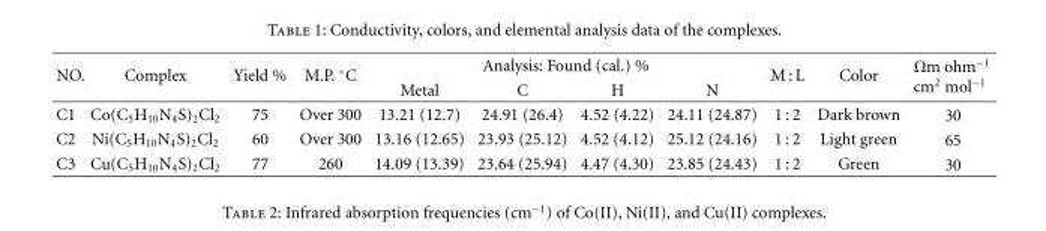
<table><thead><tr><td rowspan="2">NO.</td><td rowspan="2">Complex</td><td rowspan="2">Yield %</td><td rowspan="2">M.P. ◦C</td><td colspan="4">Analysis: Found (cal.) %</td><td rowspan="2">M : L</td><td rowspan="2">Color</td><td rowspan="2">Ωm ohm<sup>−1</sup> cm<sup>2</sup> mol<sup>−1</sup></td></tr><tr><td>Metal</td><td>C</td><td>H</td><td>N</td></tr></thead><tbody><tr><td>C1</td><td>Co(C<sub>5</sub>H<sub>10</sub>N<sub>4</sub>S)<sub>2</sub>Cl<sub>2</sub></td><td>75</td><td>Over 300</td><td>13.21 (12.7)</td><td>24.91 (26.4)</td><td>4.52 (4.22)</td><td>24.11 (24.87)</td><td>1 : 2</td><td>Dark brown</td><td>30</td></tr><tr><td>C2</td><td>Ni(C<sub>5</sub>H<sub>10</sub>N<sub>4</sub>S)<sub>2</sub>Cl<sub>2</sub></td><td>60</td><td>Over 300</td><td>13.16 (12.65)</td><td>23.93 (25.12)</td><td>4.52 (4.12)</td><td>25.12 (24.16)</td><td>1 : 2</td><td>Light green</td><td>65</td></tr><tr><td>C3</td><td>Cu(C<sub>5</sub>H<sub>10</sub>N<sub>4</sub>S)<sub>2</sub>Cl<sub>2</sub></td><td>77</td><td>260</td><td>14.09 (13.39)</td><td>23.64 (25.94)</td><td>4.47 (4.30)</td><td>23.85 (24.43)</td><td>1 : 2</td><td>Green</td><td>30</td></tr></tbody></table>